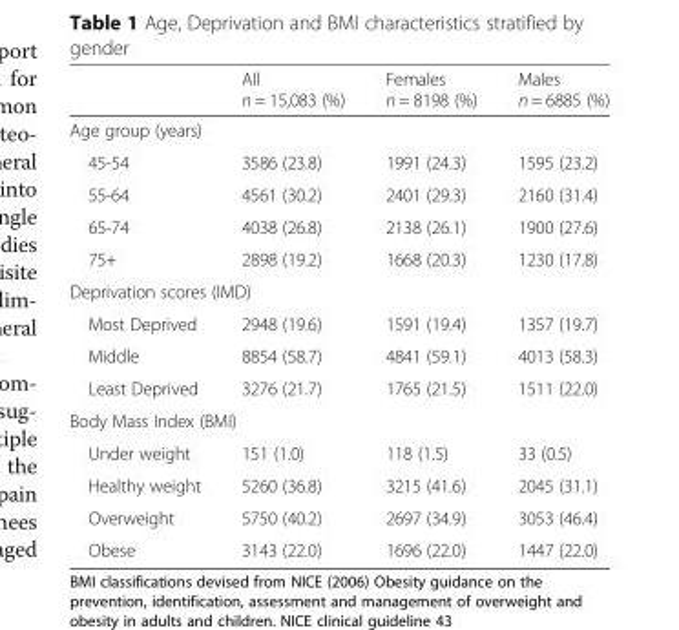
<table><thead><tr><td></td><td>All n = 15,083 (%)</td><td>Females n = 8198 (%)</td><td>Males n = 6885 (%)</td></tr></thead><tbody><tr><td colspan="4">Age group (years)</td></tr><tr><td>45-54</td><td>3586 (23.8)</td><td>1991 (24.3)</td><td>1595 (23.2)</td></tr><tr><td>55-64</td><td>4561 (30.2)</td><td>2401 (29.3)</td><td>2160 (31.4)</td></tr><tr><td>65-74</td><td>4038 (26.8)</td><td>2138 (26.1)</td><td>1900 (27.6)</td></tr><tr><td>75+</td><td>2898 (19.2)</td><td>1668 (20.3)</td><td>1230 (17.8)</td></tr><tr><td colspan="4">Deprivation scores (IMD)</td></tr><tr><td>Most Deprived</td><td>2948 (19.6)</td><td>1591 (19.4)</td><td>1357 (19.7)</td></tr><tr><td>Middle</td><td>8854 (58.7)</td><td>4841 (59.1)</td><td>4013 (58.3)</td></tr><tr><td>Least Deprived</td><td>3276 (21.7)</td><td>1765 (21.5)</td><td>1511 (22.0)</td></tr><tr><td colspan="4">Body Mass Index (BMI)</td></tr><tr><td>Under weight</td><td>151 (1.0)</td><td>118 (1.5)</td><td>33 (0.5)</td></tr><tr><td>Healthy weight</td><td>5260 (36.8)</td><td>3215 (41.6)</td><td>2045 (31.1)</td></tr><tr><td>Overweight</td><td>5750 (40.2)</td><td>2697 (34.9)</td><td>3053 (46.4)</td></tr><tr><td>Obese</td><td>3143 (22.0)</td><td>1696 (22.0)</td><td>1447 (22.0)</td></tr></tbody></table>